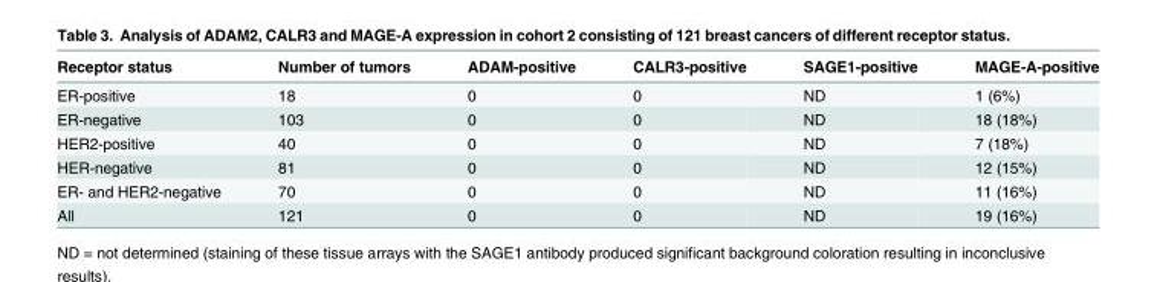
<table><thead><tr><td>Receptor status</td><td>Number of tumors</td><td>ADAM-positive</td><td>CALR3-positive</td><td>SAGE1-positive</td><td>MAGE-A-positive</td></tr></thead><tbody><tr><td>ER-positive</td><td>18</td><td>0</td><td>0</td><td>ND</td><td>1 (6%)</td></tr><tr><td>ER-negative</td><td>103</td><td>0</td><td>0</td><td>ND</td><td>18 (18%)</td></tr><tr><td>HER2-positive</td><td>40</td><td>0</td><td>0</td><td>ND</td><td>7 (18%)</td></tr><tr><td>HER-negative</td><td>81</td><td>0</td><td>0</td><td>ND</td><td>12 (15%)</td></tr><tr><td>ER- and HER2-negative</td><td>70</td><td>0</td><td>0</td><td>ND</td><td>11 (16%)</td></tr><tr><td>All</td><td>121</td><td>0</td><td>0</td><td>ND</td><td>19 (16%)</td></tr></tbody></table>